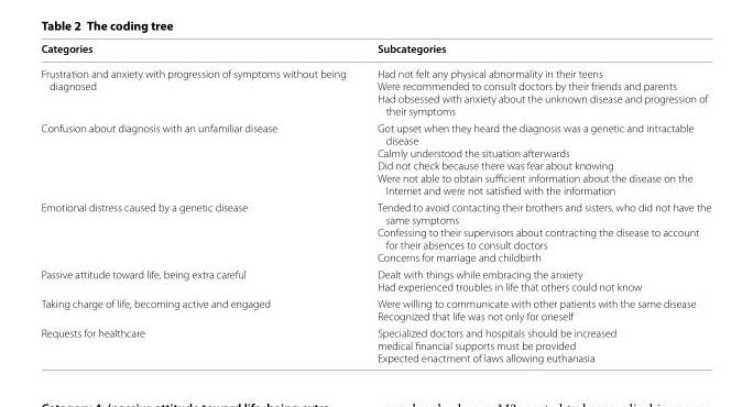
<table><thead><tr><td>Categories</td><td>Subcategories</td></tr></thead><tbody><tr><td>Frustration and anxiety with progression of symptoms without being diagnosed</td><td>Had not felt any physical abnormality in their teens Were recommended to consult doctors by their friends and parents Had obsessed with anxiety about the unknown disease and progression of their symptoms</td></tr><tr><td>Confusion about diagnosis with an unfamiliar disease</td><td>Got upset when they heard the diagnosis was a genetic and intractable disease Calmly understood the situation afterwards Did not check because there was fear about knowing Were not able to obtain sufficient information about the disease on the Internet and were not satisfied with the information</td></tr><tr><td>Emotional distress caused by a genetic disease</td><td>Tended to avoid contacting their brothers and sisters, who did not have the same symptoms Confessing to their supervisors about contracting the disease to account for their absences to consult doctors Concerns for marriage and childbirth</td></tr><tr><td>Passive attitude toward life, being extra careful</td><td>Dealt with things while embracing the anxiety Had experienced troubles in life that others could not know</td></tr><tr><td>Taking charge of life, becoming active and engaged</td><td>Were willing to communicate with other patients with the same disease Recognized that life was not only for oneself</td></tr><tr><td>Requests for healthcare</td><td>Specialized doctors and hospitals should be increased medical financial supports must be provided Expected enactment of laws allowing euthanasia</td></tr></tbody></table>